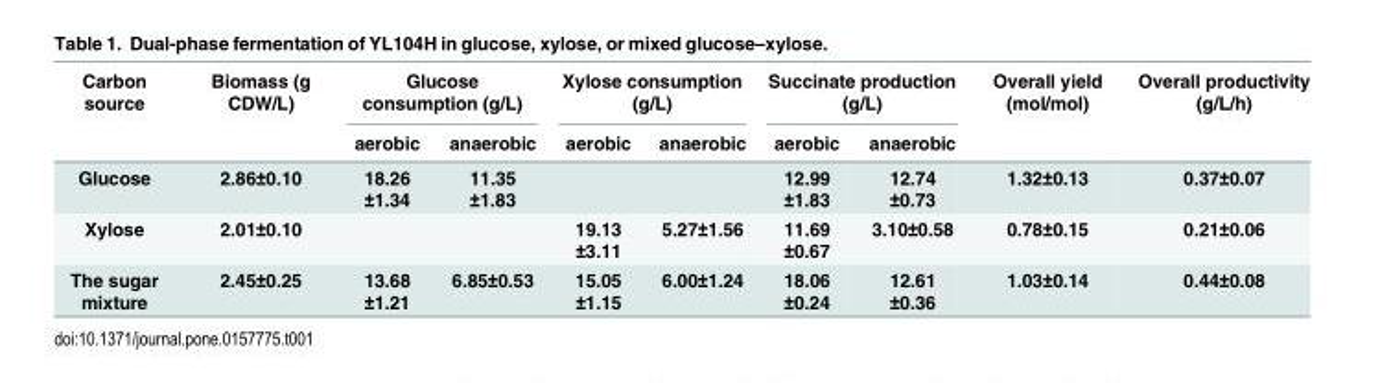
<table><thead><tr><td rowspan="2">Carbon source</td><td rowspan="2">Biomass (g CDW/L)</td><td colspan="2">Glucose consumption (g/L)</td><td colspan="2">Xylose consumption (g/L)</td><td colspan="2">Succinate production (g/L)</td><td rowspan="2">Overall yield (mol/mol)</td><td rowspan="2">Overall productivity (g/L/h)</td></tr><tr><td>aerobic</td><td>anaerobic</td><td>aerobic</td><td>anaerobic</td><td>aerobic</td><td>anaerobic</td></tr></thead><tbody><tr><td>Glucose</td><td>2.86±0.10</td><td>18.26 ±1.34</td><td>11.35 ±1.83</td><td></td><td></td><td>12.99 ±1.83</td><td>12.74 ±0.73</td><td>1.32±0.13</td><td>0.37±0.07</td></tr><tr><td>Xylose</td><td>2.01±0.10</td><td></td><td></td><td>19.13 ±3.11</td><td>5.27±1.56</td><td>11.69 ±0.67</td><td>3.10±0.58</td><td>0.78±0.15</td><td>0.21±0.06</td></tr><tr><td>The sugar mixture</td><td>2.45±0.25</td><td>13.68 ±1.21</td><td>6.85±0.53</td><td>15.05 ±1.15</td><td>6.00±1.24</td><td>18.06 ±0.24</td><td>12.61 ±0.36</td><td>1.03±0.14</td><td>0.44±0.08</td></tr></tbody></table>